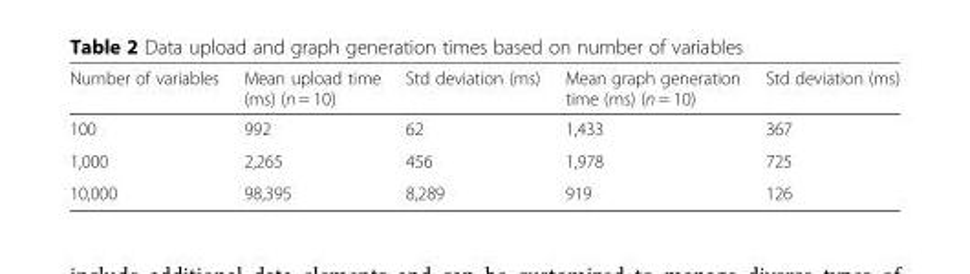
<table><thead><tr><td>Number of variables</td><td>Mean upload time (ms) (n = 10)</td><td>Std deviation (ms)</td><td>Mean graph generation time (ms) (n = 10)</td><td>Std deviation (ms)</td></tr></thead><tbody><tr><td>100</td><td>992</td><td>62</td><td>1,433</td><td>367</td></tr><tr><td>1,000</td><td>2,265</td><td>456</td><td>1,978</td><td>725</td></tr><tr><td>10,000</td><td>98,395</td><td>8,289</td><td>919</td><td>126</td></tr></tbody></table>